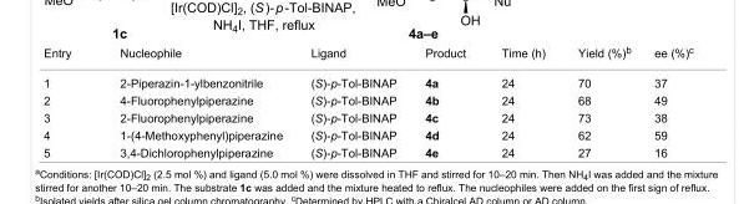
<table><tbody><tr><td>Entry</td><td>Nucleophile</td><td>Ligand</td><td>Product</td><td>Time (h)</td><td>Yield (%)<sup>b</sup></td><td>ee (%)<sup>c</sup></td></tr><tr><td>1</td><td>2-Piperazin-1-ylbenzonitrile</td><td>(S)-p-Tol-BINAP</td><td>4a</td><td>24</td><td>70</td><td>37</td></tr><tr><td>2</td><td>4-Fluorophenylpiperazine</td><td>(S)-p-Tol-BINAP</td><td>4b</td><td>24</td><td>68</td><td>49</td></tr><tr><td>3</td><td>2-Fluorophenylpiperazine</td><td>(S)-p-Tol-BINAP</td><td>4c</td><td>24</td><td>73</td><td>38</td></tr><tr><td>4</td><td>1-(4-Methoxyphenyl)piperazine</td><td>(S)-p-Tol-BINAP</td><td>4d</td><td>24</td><td>62</td><td>59</td></tr><tr><td>5</td><td>3,4-Dichlorophenylpiperazine</td><td>(S)-p-Tol-BINAP</td><td>4e</td><td>24</td><td>27</td><td>16</td></tr></tbody></table>